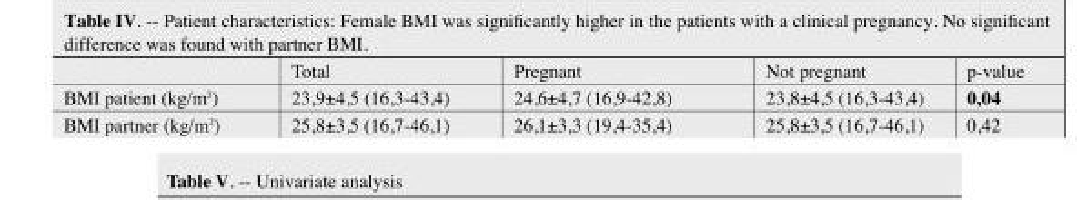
<table><thead><tr><td></td><td>Total</td><td>Pregnant</td><td>Not pregnant</td><td>p-value</td></tr></thead><tbody><tr><td>BMI patient (kg/m<sup>2</sup>)</td><td>23,9±4,5 (16,3-43,4)</td><td>24,6±4,7 (16,9-42,8)</td><td>23,8±4,5 (16,3-43,4)</td><td>0,04</td></tr><tr><td>BMI partner (kg/m2)</td><td>25,8±3,5 (16,7-46,1)</td><td>26,1±3,3 (19,4-35,4)</td><td>25,8±3,5 (16,7-46,1)</td><td>0,42</td></tr></tbody></table>